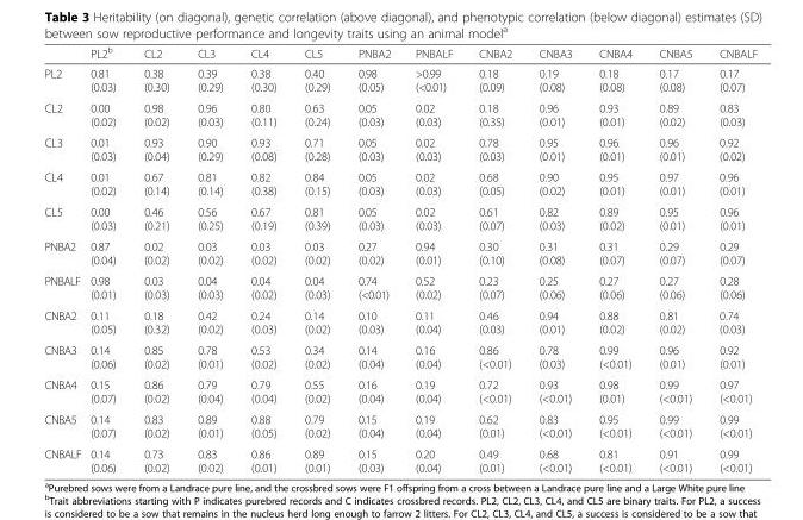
<table><thead><tr><td></td><td>PL2<sup>b</sup></td><td>CL2</td><td>CL3</td><td>CL4</td><td>CL5</td><td>PNBA2</td><td>PNBALF</td><td>CNBA2</td><td>CNBA3</td><td>CNBA4</td><td>CNBA5</td><td>CNBALF</td></tr></thead><tbody><tr><td>PL2</td><td>0.81 (0.03)</td><td>0.38 (0.30)</td><td>0.39 (0.29)</td><td>0.38 (0.30)</td><td>0.40 (0.29)</td><td>0.98 (0.05)</td><td>&gt;0.99 (&lt;0.01)</td><td>0.18 (0.09)</td><td>0.19 (0.08)</td><td>0.18 (0.08)</td><td>0.17 (0.08)</td><td>0.17 (0.07)</td></tr><tr><td>CL2</td><td>0.00 (0.02)</td><td>0.98 (0.02)</td><td>0.96 (0.03)</td><td>0.80 (0.11)</td><td>0.63 (0.24)</td><td>0.05 (0.03)</td><td>0.02 (0.03)</td><td>0.18 (0.35)</td><td>0.96 (0.01)</td><td>0.93 (0.01)</td><td>0.89 (0.02)</td><td>0.83 (0.03)</td></tr><tr><td>CL3</td><td>0.01 (0.03)</td><td>0.93 (0.04)</td><td>0.90 (0.29)</td><td>0.93 (0.08)</td><td>0.71 (0.28)</td><td>0.05 (0.03)</td><td>0.02 (0.03)</td><td>0.78 (0.03)</td><td>0.95 (0.01)</td><td>0.96 (0.01)</td><td>0.96 (0.01)</td><td>0.92 (0.02)</td></tr><tr><td>CL4</td><td>0.01 (0.02)</td><td>0.67 (0.14)</td><td>0.81 (0.14)</td><td>0.82 (0.38)</td><td>0.84 (0.15)</td><td>0.05 (0.03)</td><td>0.02 (0.03)</td><td>0.68 (0.05)</td><td>0.90 (0.02)</td><td>0.95 (0.01)</td><td>0.97 (0.01)</td><td>0.96 (0.01)</td></tr><tr><td>CL5</td><td>0.00 (0.03)</td><td>0.46 (0.21)</td><td>0.56 (0.25)</td><td>0.67 (0.19)</td><td>0.81 (0.39)</td><td>0.05 (0.03)</td><td>0.02 (0.03)</td><td>0.61 (0.07)</td><td>0.82 (0.03)</td><td>0.89 (0.02)</td><td>0.95 (0.01)</td><td>0.96 (0.01)</td></tr><tr><td>PNBA2</td><td>0.87 (0.04)</td><td>0.02 (0.02)</td><td>0.03 (0.02)</td><td>0.03 (0.02)</td><td>0.03 (0.02)</td><td>0.27 (0.02)</td><td>0.94 (0.01)</td><td>0.30 (0.10)</td><td>0.31 (0.08)</td><td>0.31 (0.07)</td><td>0.29 (0.07)</td><td>0.29 (0.07)</td></tr><tr><td>PNBALF</td><td>0.98 (0.01)</td><td>0.03 (0.03)</td><td>0.04 (0.03)</td><td>0.04 (0.02)</td><td>0.04 (0.03)</td><td>0.74 (&lt;0.01)</td><td>0.52 (0.02)</td><td>0.23 (0.07)</td><td>0.25 (0.06)</td><td>0.27 (0.06)</td><td>0.27 (0.06)</td><td>0.28 (0.06)</td></tr><tr><td>CNBA2</td><td>0.11 (0.05)</td><td>0.18 (0.32)</td><td>0.42 (0.02)</td><td>0.24 (0.03)</td><td>0.14 (0.02)</td><td>0.10 (0.03)</td><td>0.11 (0.04)</td><td>0.46 (0.03)</td><td>0.94 (0.01)</td><td>0.88 (0.02)</td><td>0.81 (0.02)</td><td>0.74 (0.03)</td></tr><tr><td>CNBA3</td><td>0.14 (0.06)</td><td>0.85 (0.02)</td><td>0.78 (0.01)</td><td>0.53 (0.02)</td><td>0.34 (0.02)</td><td>0.14 (0.04)</td><td>0.16 (0.04)</td><td>0.86 (&lt;0.01)</td><td>0.78 (0.03)</td><td>0.99 (&lt;0.01)</td><td>0.96 (0.01)</td><td>0.92 (0.01)</td></tr><tr><td>CNBA4</td><td>0.15 (0.07)</td><td>0.86 (0.02)</td><td>0.79 (0.04)</td><td>0.79 (0.04)</td><td>0.55 (0.02)</td><td>0.16 (0.04)</td><td>0.19 (0.04)</td><td>0.72 (&lt;0.01)</td><td>0.93 (&lt;0.01)</td><td>0.98 (0.01)</td><td>0.99 (&lt;0.01)</td><td>0.97 (&lt;0.01)</td></tr><tr><td>CNBA5</td><td>0.14 (0.07)</td><td>0.83 (0.02)</td><td>0.89 (0.01)</td><td>0.88 (0.05)</td><td>0.79 (0.02)</td><td>0.15 (0.04)</td><td>0.19 (0.04)</td><td>0.62 (0.01)</td><td>0.83 (&lt;0.01)</td><td>0.95 (&lt;0.01)</td><td>0.99 (&lt;0.01)</td><td>0.99 (&lt;0.01)</td></tr><tr><td>CNBALF</td><td>0.14 (0.06)</td><td>0.73 (0.02)</td><td>0.83 (0.02)</td><td>0.86 (0.01)</td><td>0.89 (0.01)</td><td>0.15 (0.03)</td><td>0.20 (0.04)</td><td>0.49 (0.01)</td><td>0.68 (&lt;0.01)</td><td>0.81 (&lt;0.01)</td><td>0.91 (&lt;0.01)</td><td>0.99 (&lt;0.01)</td></tr></tbody></table>